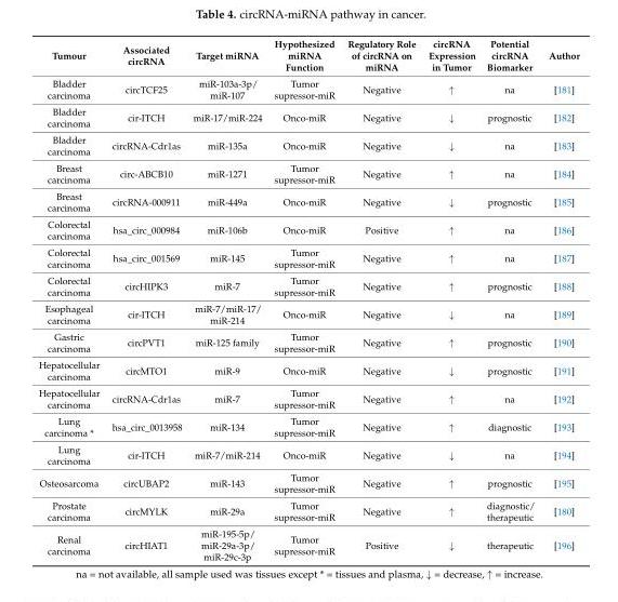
<table><thead><tr><td>Tumour</td><td>Associated circRNA</td><td>Target miRNA</td><td>Hypothesized miRNA Function</td><td>Regulatory Role of circRNA on miRNA</td><td>circRNA Expression in Tumor</td><td>Potential circRNA Biomarker</td><td>Author</td></tr></thead><tbody><tr><td>Bladder carcinoma</td><td>circTCF25</td><td>miR-103a-3p/ miR-107</td><td>Tumor supressor-miR</td><td>Negative</td><td>↑</td><td>na</td><td>[181]</td></tr><tr><td>Bladder carcinoma</td><td>cir-ITCH</td><td>miR-17/miR-224</td><td>Onco-miR</td><td>Negative</td><td>↓</td><td>prognostic</td><td>[182]</td></tr><tr><td>Bladder carcinoma</td><td>circRNA-Cdr1as</td><td>miR-135a</td><td>Onco-miR</td><td>Negative</td><td>↓</td><td>na</td><td>[183]</td></tr><tr><td>Breast carcinoma</td><td>circ-ABCB10</td><td>miR-1271</td><td>Tumor supressor-miR</td><td>Negative</td><td>↑</td><td>na</td><td>[184]</td></tr><tr><td>Breast carcinoma</td><td>circRNA-000911</td><td>miR-449a</td><td>Onco-miR</td><td>Negative</td><td>↓</td><td>prognostic</td><td>[185]</td></tr><tr><td>Colorectal carcinoma</td><td>hsa_circ_000984</td><td>miR-106b</td><td>Onco-miR</td><td>Positive</td><td>↑</td><td>na</td><td>[186]</td></tr><tr><td>Colorectal carcinoma</td><td>hsa_circ_001569</td><td>miR-145</td><td>Tumor supressor-miR</td><td>Negative</td><td>↑</td><td>na</td><td>[187]</td></tr><tr><td>Colorectal carcinoma</td><td>circHIPK3</td><td>miR-7</td><td>Tumor supressor-miR</td><td>Negative</td><td>↑</td><td>prognostic</td><td>[188]</td></tr><tr><td>Esophageal carcinoma</td><td>cir-ITCH</td><td>miR-7/miR-17/ miR-214</td><td>Onco-miR</td><td>Negative</td><td>↓</td><td>na</td><td>[189]</td></tr><tr><td>Gastric carcinoma</td><td>circPVT1</td><td>miR-125 family</td><td>Tumor supressor-miR</td><td>Negative</td><td>↑</td><td>prognostic</td><td>[190]</td></tr><tr><td>Hepatocellular carcinoma</td><td>circMTO1</td><td>miR-9</td><td>Onco-miR</td><td>Negative</td><td>↓</td><td>prognostic</td><td>[191]</td></tr><tr><td>Hepatocellular carcinoma</td><td>circRNA-Cdr1as</td><td>miR-7</td><td>Tumor supressor-miR</td><td>Negative</td><td>↑</td><td>na</td><td>[192]</td></tr><tr><td>Lung carcinoma *</td><td>hsa_circ_0013958</td><td>miR-134</td><td>Tumor supressor-miR</td><td>Negative</td><td>↑</td><td>diagnostic</td><td>[193]</td></tr><tr><td>Lung carcinoma</td><td>cir-ITCH</td><td>miR-7/miR-214</td><td>Onco-miR</td><td>Negative</td><td>↓</td><td>na</td><td>[194]</td></tr><tr><td>Osteosarcoma</td><td>circUBAP2</td><td>miR-143</td><td>Tumor supressor-miR</td><td>Negative</td><td>↑</td><td>prognostic</td><td>[195]</td></tr><tr><td>Prostate carcinoma</td><td>circMYLK</td><td>miR-29a</td><td>Tumor supressor-miR</td><td>Negative</td><td>↑</td><td>diagnostic/ therapeutic</td><td>[180]</td></tr><tr><td>Renal carcinoma</td><td>circHIAT1</td><td>miR-195-5p/ miR-29a-3p/ miR-29c-3p</td><td>Tumor supressor-miR</td><td>Positive</td><td>↓</td><td>therapeutic</td><td>[196]</td></tr></tbody></table>